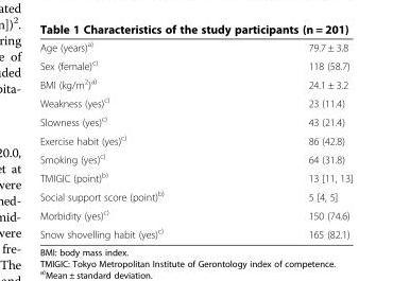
<table><tbody><tr><td>Age (years)<sup>a)</sup></td><td>79.7 ± 3.8</td></tr><tr><td>Sex (female)<sup>c)</sup></td><td>118 (58.7)</td></tr><tr><td>BMI (kg/m<sup>2</sup>)<sup>a)</sup></td><td>24.1 ± 3.2</td></tr><tr><td>Weakness (yes)<sup>c)</sup></td><td>23 (11.4)</td></tr><tr><td>Slowness (yes)<sup>c)</sup></td><td>43 (21.4)</td></tr><tr><td>Exercise habit (yes)<sup>c)</sup></td><td>86 (42.8)</td></tr><tr><td>Smoking (yes)<sup>c)</sup></td><td>64 (31.8)</td></tr><tr><td>TMIGIC (point)<sup>b)</sup></td><td>13 [11, 13]</td></tr><tr><td>Social support score (point)<sup>b)</sup></td><td>5 [4, 5]</td></tr><tr><td>Morbidity (yes)<sup>c)</sup></td><td>150 (74.6)</td></tr><tr><td>Snow shovelling habit (yes)<sup>c)</sup></td><td>165 (82.1)</td></tr></tbody></table>